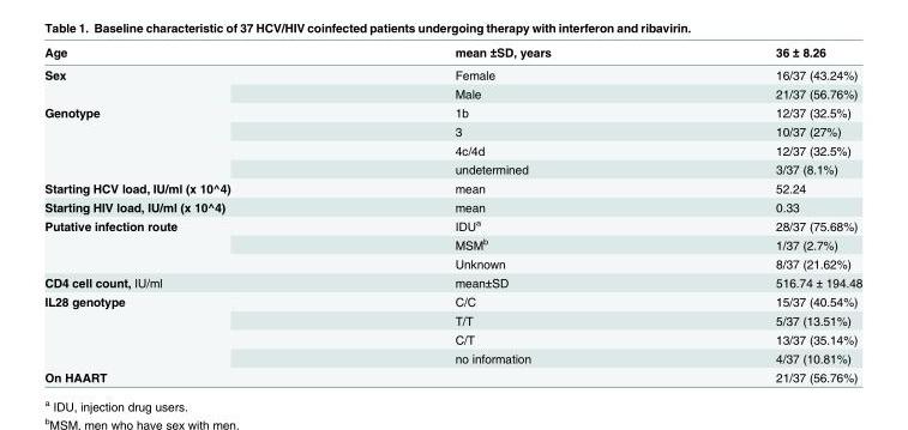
<table><thead><tr><td>Age</td><td>mean ±SD, years</td><td>36 ± 8.26</td></tr></thead><tbody><tr><td rowspan="2">Sex</td><td>Female</td><td>16/37 (43.24%)</td></tr><tr><td>Male</td><td>21/37 (56.76%)</td></tr><tr><td rowspan="4">Genotype</td><td>1b</td><td>12/37 (32.5%)</td></tr><tr><td>3</td><td>10/37 (27%)</td></tr><tr><td>4c/4d</td><td>12/37 (32.5%)</td></tr><tr><td>undetermined</td><td>3/37 (8.1%)</td></tr><tr><td>Starting HCV load, IU/ml (x 10^4)</td><td>mean</td><td>52.24</td></tr><tr><td>Starting HIV load, IU/ml (x 10^4)</td><td>mean</td><td>0.33</td></tr><tr><td rowspan="3">Putative infection route</td><td>IDU<sup>a</sup></td><td>28/37 (75.68%)</td></tr><tr><td>MSM<sup>b</sup></td><td>1/37 (2.7%)</td></tr><tr><td>Unknown</td><td>8/37 (21.62%)</td></tr><tr><td>CD4 cell count, IU/ml</td><td>mean±SD</td><td>516.74 ± 194.48</td></tr><tr><td rowspan="4">IL28 genotype</td><td>C/C</td><td>15/37 (40.54%)</td></tr><tr><td>T/T</td><td>5/37 (13.51%)</td></tr><tr><td>C/T</td><td>13/37 (35.14%)</td></tr><tr><td>no information</td><td>4/37 (10.81%)</td></tr><tr><td>On HAART</td><td></td><td>21/37 (56.76%)</td></tr></tbody></table>